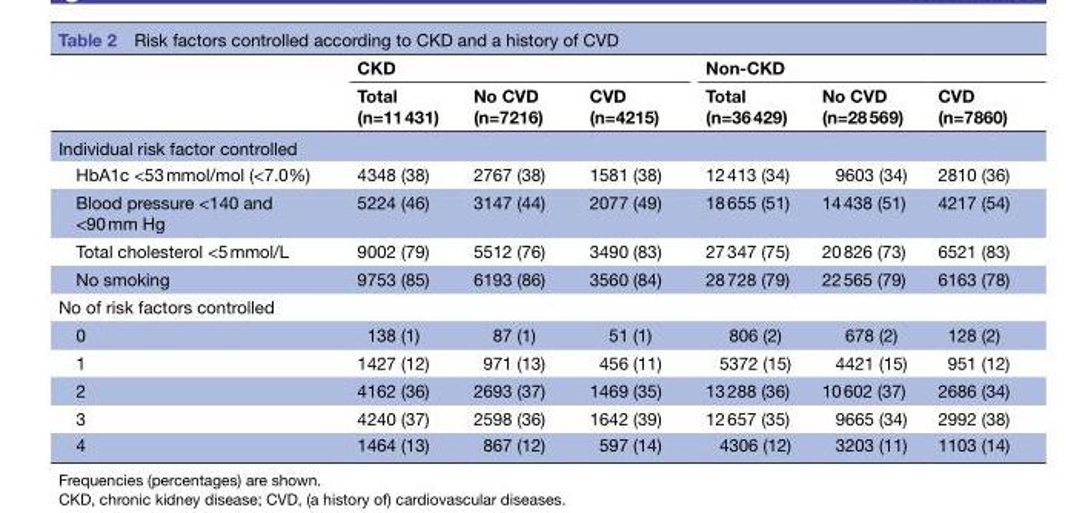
<table><thead><tr><td rowspan="2"></td><td colspan="3">CKD</td><td colspan="3">Non-CKD</td></tr><tr><td>Total (n=11 431)</td><td>No CVD (n=7216)</td><td>CVD (n=4215)</td><td>Total (n=36 429)</td><td>No CVD (n=28 569)</td><td>CVD (n=7860)</td></tr></thead><tbody><tr><td colspan="7">Individual risk factor controlled</td></tr><tr><td>HbA1c &lt;53 mmol/mol (&lt;7.0%)</td><td>4348 (38)</td><td>2767 (38)</td><td>1581 (38)</td><td>12 413 (34)</td><td>9603 (34)</td><td>2810 (36)</td></tr><tr><td>Blood pressure &lt;140 and &lt;90 mm Hg</td><td>5224 (46)</td><td>3147 (44)</td><td>2077 (49)</td><td>18 655 (51)</td><td>14 438 (51)</td><td>4217 (54)</td></tr><tr><td>Total cholesterol &lt;5 mmol/L</td><td>9002 (79)</td><td>5512 (76)</td><td>3490 (83)</td><td>27 347 (75)</td><td>20 826 (73)</td><td>6521 (83)</td></tr><tr><td>No smoking</td><td>9753 (85)</td><td>6193 (86)</td><td>3560 (84)</td><td>28 728 (79)</td><td>22 565 (79)</td><td>6163 (78)</td></tr><tr><td colspan="7">No of risk factors controlled</td></tr><tr><td>0</td><td>138 (1)</td><td>87 (1)</td><td>51 (1)</td><td>806 (2)</td><td>678 (2)</td><td>128 (2)</td></tr><tr><td>1</td><td>1427 (12)</td><td>971 (13)</td><td>456 (11)</td><td>5372 (15)</td><td>4421 (15)</td><td>951 (12)</td></tr><tr><td>2</td><td>4162 (36)</td><td>2693 (37)</td><td>1469 (35)</td><td>13 288 (36)</td><td>10 602 (37)</td><td>2686 (34)</td></tr><tr><td>3</td><td>4240 (37)</td><td>2598 (36)</td><td>1642 (39)</td><td>12 657 (35)</td><td>9665 (34)</td><td>2992 (38)</td></tr><tr><td>4</td><td>1464 (13)</td><td>867 (12)</td><td>597 (14)</td><td>4306 (12)</td><td>3203 (11)</td><td>1103 (14)</td></tr></tbody></table>